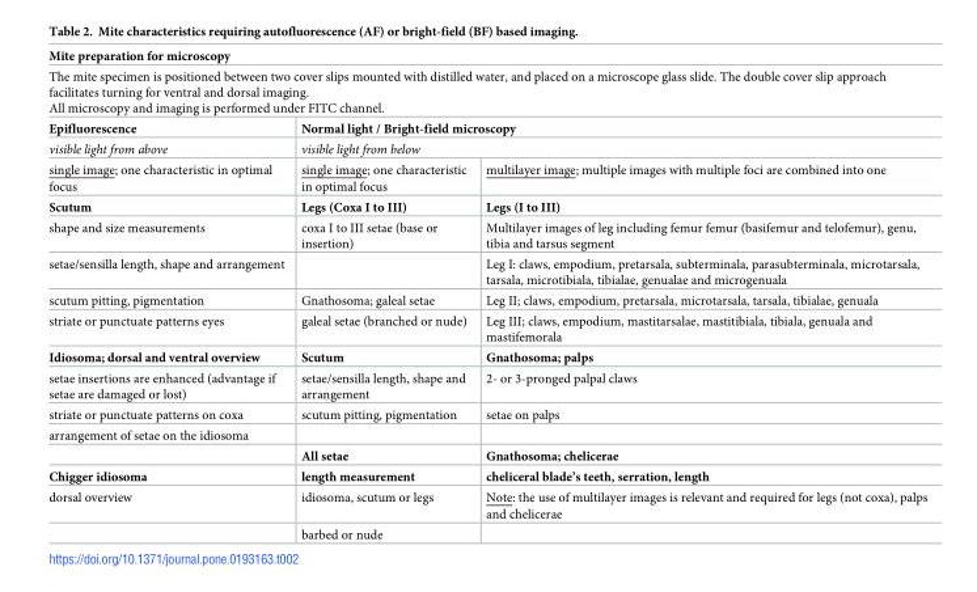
<table><tbody><tr><td colspan="3">Mite preparation for microscopy</td></tr><tr><td colspan="3">The mite specimen is positioned between two cover slips mounted with distilled water, and placed on a microscope glass slide. The double cover slip approach facilitates turning for ventral and dorsal imaging. All microscopy and imaging is performed under FITC channel.</td></tr><tr><td>Epifluorescence</td><td colspan="2">Normal light / Bright-field microscopy</td></tr><tr><td>visible light from above</td><td colspan="2">visible light from below</td></tr><tr><td>single image; one characteristic in optimal focus</td><td>single image; one characteristic in optimal focus</td><td>multilayer image; multiple images with multiple foci are combined into one</td></tr><tr><td>Scutum</td><td>Legs (Coxa I to III)</td><td>Legs (I to III)</td></tr><tr><td>shape and size measurements</td><td>coxa I to III setae (base or insertion)</td><td>Multilayer images of leg including femur femur (basifemur and telofemur), genu, tibia and tarsus segment</td></tr><tr><td>setae/sensilla length, shape and arrangement</td><td></td><td>Leg I: claws, empodium, pretarsala, subterminala, parasubterminala, microtarsala, tarsala, microtibiala, tibialae, genualae and microgenuala</td></tr><tr><td>scutum pitting, pigmentation</td><td>Gnathosoma; galeal setae</td><td>Leg II; claws, empodium, pretarsala, microtarsala, tarsala, tibialae, genuala</td></tr><tr><td>striate or punctuate patterns eyes</td><td>galeal setae (branched or nude)</td><td>Leg III; claws, empodium, mastitarsalae, mastitibiala, tibiala, genuala and mastifemorala</td></tr><tr><td>Idiosoma; dorsal and ventral overview</td><td>Scutum</td><td>Gnathosoma; palps</td></tr><tr><td>setae insertions are enhanced (advantage if setae are damaged or lost)</td><td>setae/sensilla length, shape and arrangement</td><td>2- or 3-pronged palpal claws</td></tr><tr><td>striate or punctuate patterns on coxa</td><td>scutum pitting, pigmentation</td><td>setae on palps</td></tr><tr><td colspan="3">arrangement of setae on the idiosoma</td></tr><tr><td></td><td>All setae</td><td>Gnathosoma; chelicerae</td></tr><tr><td>Chigger idiosoma</td><td>length measurement</td><td>cheliceral blade’s teeth, serration, length</td></tr><tr><td rowspan="2">dorsal overview</td><td>idiosoma, scutum or legs</td><td>Note: the use of multilayer images is relevant and required for legs (not coxa), palps and chelicerae</td></tr><tr><td>barbed or nude</td><td></td></tr></tbody></table>